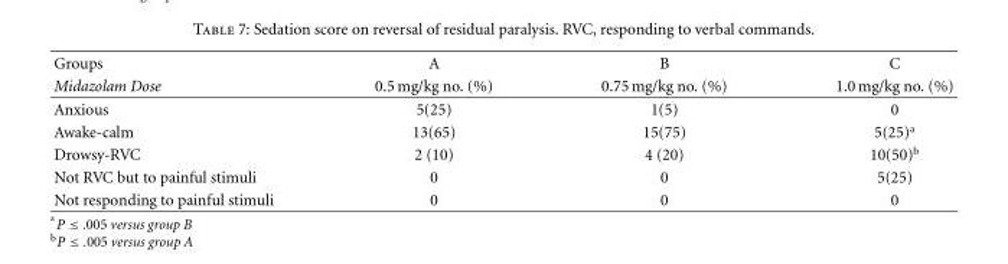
<table><thead><tr><td rowspan="2">Groups Midazolam Dose</td><td rowspan="2">A 0.5 mg/kg no. (%)</td><td rowspan="2">B 0.75 mg/kg no. (%)</td><td rowspan="2">C 1.0 mg/kg no. (%)</td></tr><tr></tr></thead><tbody><tr><td>Anxious</td><td>5(25)</td><td>1(5)</td><td>0</td></tr><tr><td>Awake-calm</td><td>13(65)</td><td>15(75)</td><td>5(25)<sup>a</sup></td></tr><tr><td>Drowsy-RVC</td><td>2 (10)</td><td>4 (20)</td><td>10(50)<sup>b</sup></td></tr><tr><td>Not RVC but to painful stimuli</td><td>0</td><td>0</td><td>5(25)</td></tr><tr><td>Not responding to painful stimuli</td><td>0</td><td>0</td><td>0</td></tr></tbody></table>